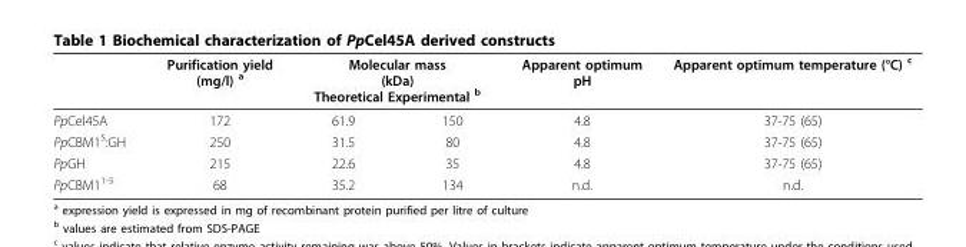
<table><thead><tr><td rowspan="2">PpCel45A</td><td rowspan="2">Purification yield (mg/l) <sup>a</sup> 172</td><td colspan="2">Molecular mass (kDa) Theoretical Experimental <sup>b</sup></td><td rowspan="2">Apparent optimum pH 4.8</td><td rowspan="2">Apparent optimum temperature (°C) <sup>c</sup> 37-75 (65)</td></tr><tr><td>61.9</td><td>150</td></tr></thead><tbody><tr><td>PpCBM1<sup>5</sup>:GH</td><td>250</td><td>31.5</td><td>80</td><td>4.8</td><td>37-75 (65)</td></tr><tr><td>PpGH</td><td>215</td><td>22.6</td><td>35</td><td>4.8</td><td>37-75 (65)</td></tr><tr><td>PpCBM1<sup>1-5</sup></td><td>68</td><td>35.2</td><td>134</td><td>n.d.</td><td>n.d.</td></tr></tbody></table>